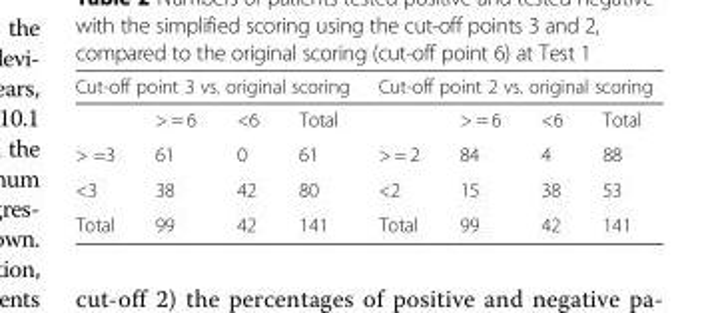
<table><thead><tr><td colspan="4">Cut-off point 3 vs. original scoring</td><td colspan="4">Cut-off point 2 vs. original scoring</td></tr><tr><td></td><td>&gt; = 6</td><td>&lt;6</td><td>Total</td><td></td><td>&gt; = 6</td><td>&lt;6</td><td>Total</td></tr></thead><tbody><tr><td>&gt; =3</td><td>61</td><td>0</td><td>61</td><td>&gt; = 2</td><td>84</td><td>4</td><td>88</td></tr><tr><td>&lt;3</td><td>38</td><td>42</td><td>80</td><td>&lt;2</td><td>15</td><td>38</td><td>53</td></tr><tr><td>Total</td><td>99</td><td>42</td><td>141</td><td>Total</td><td>99</td><td>42</td><td>141</td></tr></tbody></table>